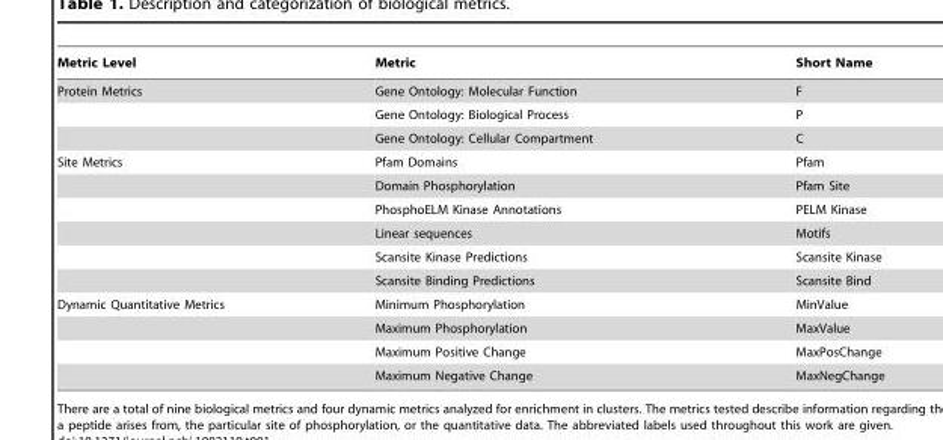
<table><thead><tr><td>Metric Level</td><td>Metric</td><td>Short Name</td></tr></thead><tbody><tr><td rowspan="3">Protein Metrics</td><td>Gene Ontology: Molecular Function</td><td>F</td></tr><tr><td>Gene Ontology: Biological Process</td><td>P</td></tr><tr><td>Gene Ontology: Cellular Compartment</td><td>C</td></tr><tr><td rowspan="6">Site Metrics</td><td>Pfam Domains</td><td>Pfam</td></tr><tr><td>Domain Phosphorylation</td><td>Pfam Site</td></tr><tr><td>PhosphoELM Kinase Annotations</td><td>PELM Kinase</td></tr><tr><td>Linear sequences</td><td>Motifs</td></tr><tr><td>Scansite Kinase Predictions</td><td>Scansite Kinase</td></tr><tr><td>Scansite Binding Predictions</td><td>Scansite Bind</td></tr><tr><td rowspan="4">Dynamic Quantitative Metrics</td><td>Minimum Phosphorylation</td><td>MinValue</td></tr><tr><td>Maximum Phosphorylation</td><td>MaxValue</td></tr><tr><td>Maximum Positive Change</td><td>MaxPosChange</td></tr><tr><td>Maximum Negative Change</td><td>MaxNegChange</td></tr></tbody></table>